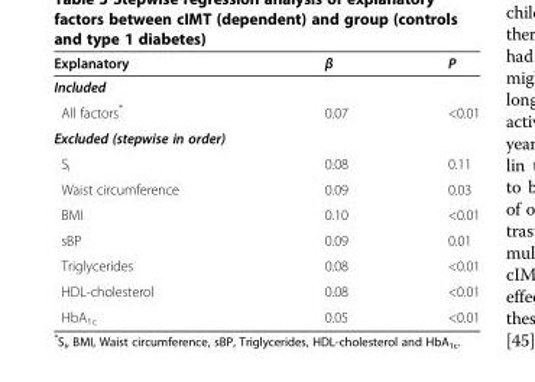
<table><thead><tr><td>Explanatory</td><td>β</td><td>P</td></tr></thead><tbody><tr><td colspan="3">Included</td></tr><tr><td>All factors*</td><td>0.07</td><td>&lt;0.01</td></tr><tr><td colspan="3">Excluded (stepwise in order)</td></tr><tr><td>S<sub>i</sub></td><td>0.08</td><td>0.11</td></tr><tr><td>Waist circumference</td><td>0.09</td><td>0.03</td></tr><tr><td>BMI</td><td>0.10</td><td>&lt;0.01</td></tr><tr><td>sBP</td><td>0.09</td><td>0.01</td></tr><tr><td>Triglycerides</td><td>0.08</td><td>&lt;0.01</td></tr><tr><td>HDL-cholesterol</td><td>0.08</td><td>&lt;0.01</td></tr><tr><td>HbA<sub>1c</sub></td><td>0.05</td><td>&lt;0.01</td></tr></tbody></table>